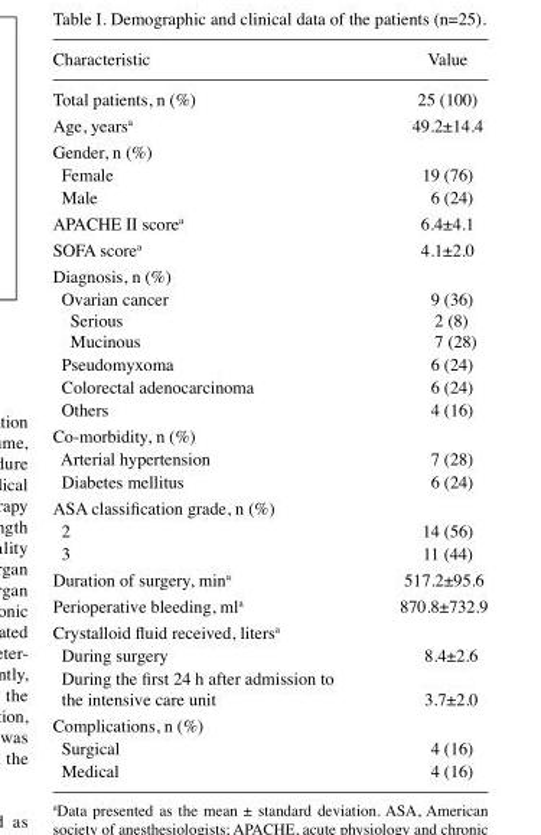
<table><thead><tr><td>Characteristic</td><td>Value</td></tr></thead><tbody><tr><td>Total patients, n (%)</td><td>25 (100)</td></tr><tr><td>Age, years<sup>a</sup></td><td>49.2±14.4</td></tr><tr><td colspan="2">Gender, n (%)</td></tr><tr><td>Female</td><td>19 (76)</td></tr><tr><td>Male</td><td>6 (24)</td></tr><tr><td>APACHE II score<sup>a</sup></td><td>6.4±4.1</td></tr><tr><td>SOFA score<sup>a</sup></td><td>4.1±2.0</td></tr><tr><td colspan="2">Diagnosis, n (%)</td></tr><tr><td>Ovarian cancer</td><td>9 (36)</td></tr><tr><td>Serious</td><td>2 (8)</td></tr><tr><td>Mucinous</td><td>7 (28)</td></tr><tr><td>Pseudomyxoma</td><td>6 (24)</td></tr><tr><td>Colorectal adenocarcinoma</td><td>6 (24)</td></tr><tr><td>Others</td><td>4 (16)</td></tr><tr><td colspan="2">Co-morbidity, n (%)</td></tr><tr><td>Arterial hypertension</td><td>7 (28)</td></tr><tr><td>Diabetes mellitus</td><td>6 (24)</td></tr><tr><td colspan="2">ASA classification grade, n (%)</td></tr><tr><td>2</td><td>14 (56)</td></tr><tr><td>3</td><td>11 (44)</td></tr><tr><td>Duration of surgery, min<sup>a</sup></td><td>517.2±95.6</td></tr><tr><td>Perioperative bleeding, ml<sup>a</sup></td><td>870.8±732.9</td></tr><tr><td colspan="2">Crystalloid fluid received, liters<sup>a</sup></td></tr><tr><td>During surgery</td><td>8.4±2.6</td></tr><tr><td>During the first 24 h after admission to the intensive care unit</td><td>3.7±2.0</td></tr><tr><td colspan="2">Complications, n (%)</td></tr><tr><td>Surgical</td><td>4 (16)</td></tr><tr><td>Medical</td><td>4 (16)</td></tr></tbody></table>